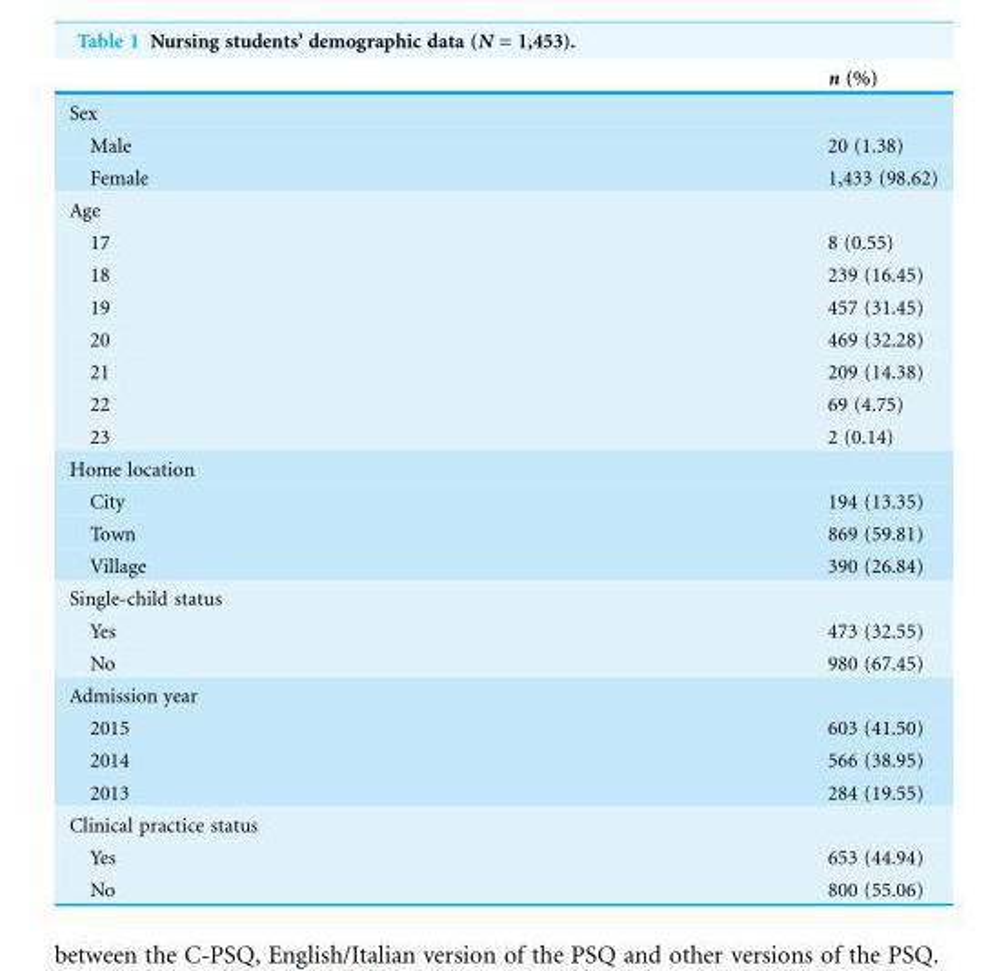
<table><thead><tr><td></td><td>n (%)</td></tr></thead><tbody><tr><td colspan="2">Sex</td></tr><tr><td>Male</td><td>20 (1.38)</td></tr><tr><td>Female</td><td>1,433 (98.62)</td></tr><tr><td colspan="2">Age</td></tr><tr><td>17</td><td>8 (0.55)</td></tr><tr><td>18</td><td>239 (16.45)</td></tr><tr><td>19</td><td>457 (31.45)</td></tr><tr><td>20</td><td>469 (32.28)</td></tr><tr><td>21</td><td>209 (14.38)</td></tr><tr><td>22</td><td>69 (4.75)</td></tr><tr><td>23</td><td>2 (0.14)</td></tr><tr><td colspan="2">Home location</td></tr><tr><td>City</td><td>194 (13.35)</td></tr><tr><td>Town</td><td>869 (59.81)</td></tr><tr><td>Village</td><td>390 (26.84)</td></tr><tr><td colspan="2">Single-child status</td></tr><tr><td>Yes</td><td>473 (32.55)</td></tr><tr><td>No</td><td>980 (67.45)</td></tr><tr><td colspan="2">Admission year</td></tr><tr><td>2015</td><td>603 (41.50)</td></tr><tr><td>2014</td><td>566 (38.95)</td></tr><tr><td>2013</td><td>284 (19.55)</td></tr><tr><td colspan="2">Clinical practice status</td></tr><tr><td>Yes</td><td>653 (44.94)</td></tr><tr><td>No</td><td>800 (55.06)</td></tr></tbody></table>